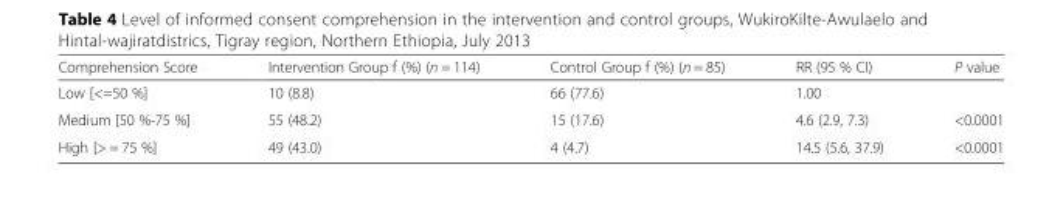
<table><thead><tr><td>Comprehension Score</td><td>Intervention Group f (%) (n = 114)</td><td>Control Group f (%) (n = 85)</td><td>RR (95 % CI)</td><td>P value</td></tr></thead><tbody><tr><td>Low [&lt;=50 %]</td><td>10 (8.8)</td><td>66 (77.6)</td><td>1.00</td><td></td></tr><tr><td>Medium [50 %-75 %]</td><td>55 (48.2)</td><td>15 (17.6)</td><td>4.6 (2.9, 7.3)</td><td>&lt;0.0001</td></tr><tr><td>High [&gt; = 75 %]</td><td>49 (43.0)</td><td>4 (4.7)</td><td>14.5 (5.6, 37.9)</td><td>&lt;0.0001</td></tr></tbody></table>